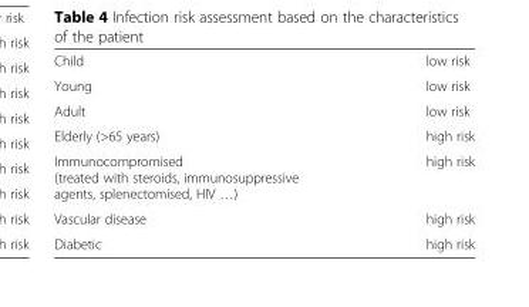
<table><tbody><tr><td>Child</td><td>low risk</td></tr><tr><td>Young</td><td>low risk</td></tr><tr><td>Adult</td><td>low risk</td></tr><tr><td>Elderly (&gt;65 years)</td><td>high risk</td></tr><tr><td>Immunocompromised (treated with steroids, immunosuppressive agents, splenectomised, HIV …)</td><td>high risk</td></tr><tr><td>Vascular disease</td><td>high risk</td></tr><tr><td>Diabetic</td><td>high risk</td></tr></tbody></table>